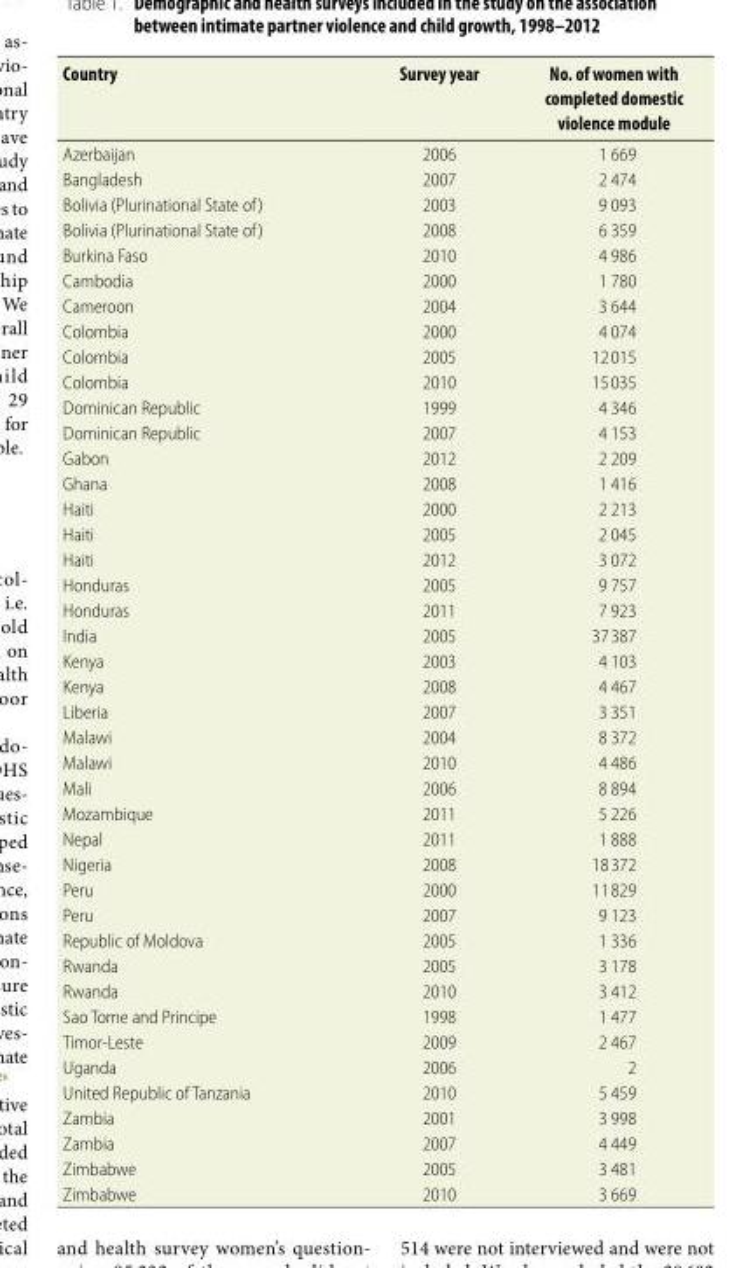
<table><thead><tr><td>Country</td><td>Survey year</td><td>No. of women with completed domestic violence module</td></tr></thead><tbody><tr><td>Azerbaijan</td><td>2006</td><td>1 669</td></tr><tr><td>Bangladesh</td><td>2007</td><td>2 474</td></tr><tr><td>Bolivia (Plurinational State of)</td><td>2003</td><td>9 093</td></tr><tr><td>Bolivia (Plurinational State of)</td><td>2008</td><td>6 359</td></tr><tr><td>Burkina Faso</td><td>2010</td><td>4 986</td></tr><tr><td>Cambodia</td><td>2000</td><td>1 780</td></tr><tr><td>Cameroon</td><td>2004</td><td>3 644</td></tr><tr><td>Colombia</td><td>2000</td><td>4 074</td></tr><tr><td>Colombia</td><td>2005</td><td>12 015</td></tr><tr><td>Colombia</td><td>2010</td><td>15 035</td></tr><tr><td>Dominican Republic</td><td>1999</td><td>4 346</td></tr><tr><td>Dominican Republic</td><td>2007</td><td>4 153</td></tr><tr><td>Gabon</td><td>2012</td><td>2 209</td></tr><tr><td>Ghana</td><td>2008</td><td>1 416</td></tr><tr><td>Haiti</td><td>2000</td><td>2 213</td></tr><tr><td>Haiti</td><td>2005</td><td>2 045</td></tr><tr><td>Haiti</td><td>2012</td><td>3 072</td></tr><tr><td>Honduras</td><td>2005</td><td>9 757</td></tr><tr><td>Honduras</td><td>2011</td><td>7 923</td></tr><tr><td>India</td><td>2005</td><td>37 387</td></tr><tr><td>Kenya</td><td>2003</td><td>4 103</td></tr><tr><td>Kenya</td><td>2008</td><td>4 467</td></tr><tr><td>Liberia</td><td>2007</td><td>3 351</td></tr><tr><td>Malawi</td><td>2004</td><td>8 372</td></tr><tr><td>Malawi</td><td>2010</td><td>4 486</td></tr><tr><td>Mali</td><td>2006</td><td>8 894</td></tr><tr><td>Mozambique</td><td>2011</td><td>5 226</td></tr><tr><td>Nepal</td><td>2011</td><td>1 888</td></tr><tr><td>Nigeria</td><td>2008</td><td>18 372</td></tr><tr><td>Peru</td><td>2000</td><td>11 829</td></tr><tr><td>Peru</td><td>2007</td><td>9 123</td></tr><tr><td>Republic of Moldova</td><td>2005</td><td>1 336</td></tr><tr><td>Rwanda</td><td>2005</td><td>3 178</td></tr><tr><td>Rwanda</td><td>2010</td><td>3 412</td></tr><tr><td>Sao Tome and Principe</td><td>1998</td><td>1 477</td></tr><tr><td>Timor-Leste</td><td>2009</td><td>2 467</td></tr><tr><td>Uganda</td><td>2006</td><td>2</td></tr><tr><td>United Republic of Tanzania</td><td>2010</td><td>5 459</td></tr><tr><td>Zambia</td><td>2001</td><td>3 998</td></tr><tr><td>Zambia</td><td>2007</td><td>4 449</td></tr><tr><td>Zimbabwe</td><td>2005</td><td>3 481</td></tr><tr><td>Zimbabwe</td><td>2010</td><td>3 669</td></tr></tbody></table>